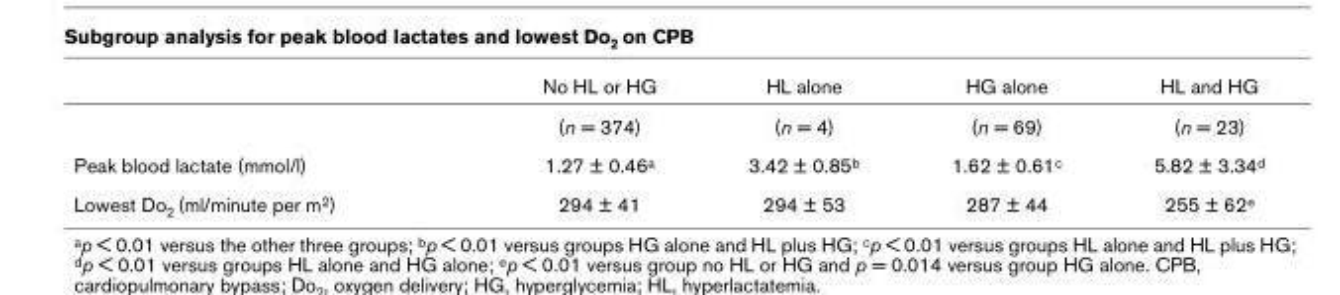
<table><thead><tr><td></td><td>No HL or HG</td><td>HL alone</td><td>HG alone</td><td>HL and HG</td></tr></thead><tbody><tr><td></td><td>(n = 374)</td><td>(n = 4)</td><td>(n = 69)</td><td>(n = 23)</td></tr><tr><td>Peak blood lactate (mmol/l)</td><td>1.27 ± 0.46a</td><td>3.42 ± 0.85b</td><td>1.62 ± 0.61c</td><td>5.82 ± 3.34d</td></tr><tr><td>Lowest Do2 (ml/minute per m2)</td><td>294 ± 41</td><td>294 ± 53</td><td>287 ± 44</td><td>255 ± 62e</td></tr></tbody></table>